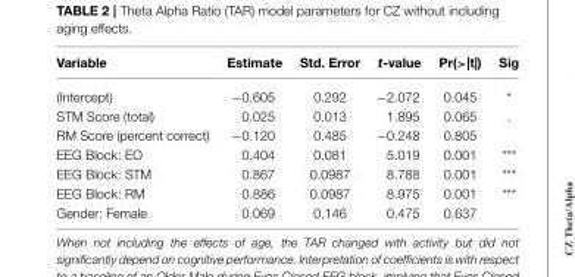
<table><thead><tr><td>Variable</td><td>Estimate</td><td>Std. Error</td><td>t-value</td><td>Pr(&gt;|t|)</td><td>Sig</td></tr></thead><tbody><tr><td>(Intercept)</td><td>−0.605</td><td>0.292</td><td>−2.072</td><td>0.045</td><td>*</td></tr><tr><td>STM Score (total)</td><td>0.025</td><td>0.013</td><td>1.895</td><td>0.065</td><td>.</td></tr><tr><td>RM Score (percent correct)</td><td>−0.120</td><td>0.485</td><td>−0.248</td><td>0.805</td><td></td></tr><tr><td>EEG Block: EO</td><td>0.404</td><td>0.081</td><td>5.019</td><td>0.001</td><td>***</td></tr><tr><td>EEG Block: STM</td><td>0.867</td><td>0.0987</td><td>8.788</td><td>0.001</td><td>***</td></tr><tr><td>EEG Block: RM</td><td>0.886</td><td>0.0987</td><td>8.975</td><td>0.001</td><td>***</td></tr><tr><td>Gender: Female</td><td>0.069</td><td>0.146</td><td>0.475</td><td>0.637</td><td></td></tr></tbody></table>